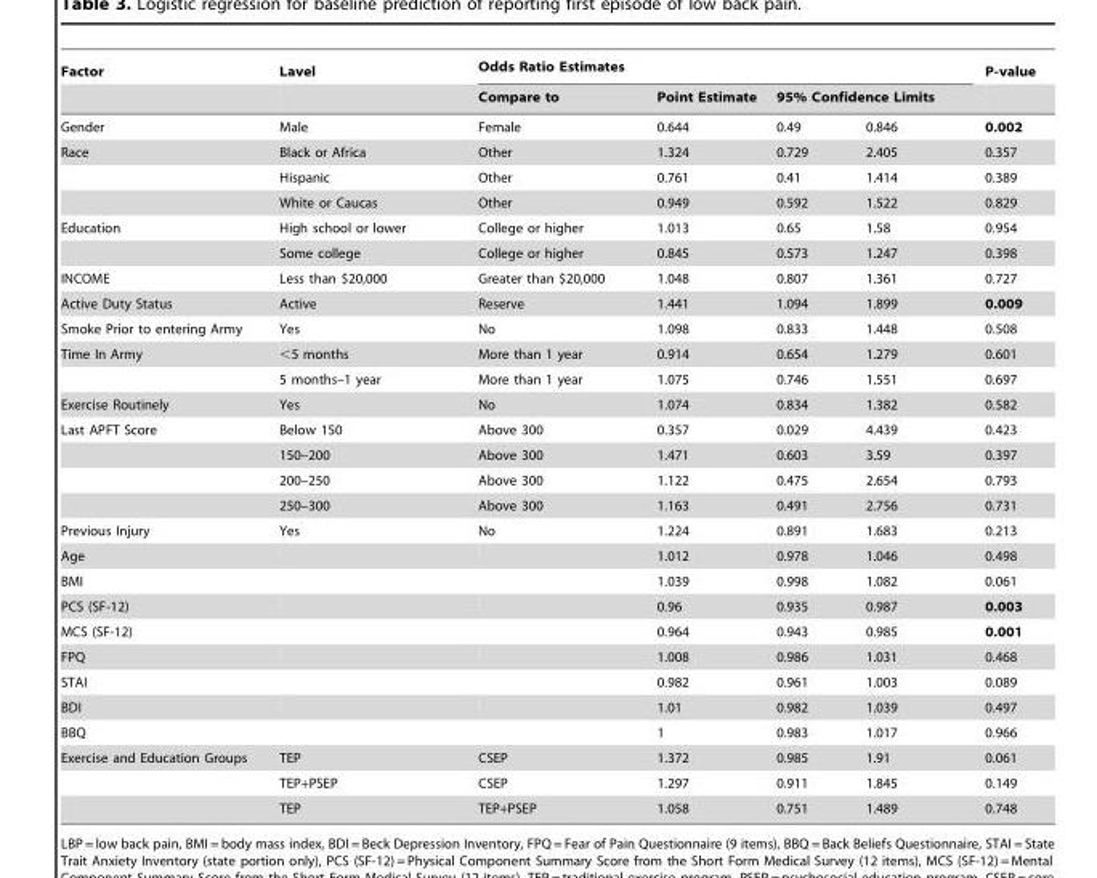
<table><thead><tr><td rowspan="3">Factor Gender</td><td rowspan="3">Lavel Male</td><td colspan="4">Odds Ratio Estimates</td><td rowspan="3">P-value 0.002</td></tr><tr><td rowspan="2">Compare to Female</td><td rowspan="2">Point Estimate 0.644</td><td colspan="2">95% Confidence Limits</td></tr><tr><td>0.49</td><td>0.846</td></tr></thead><tbody><tr><td rowspan="3">Race</td><td>Black or Africa</td><td>Other</td><td>1.324</td><td>0.729</td><td>2.405</td><td>0.357</td></tr><tr><td>Hispanic</td><td>Other</td><td>0.761</td><td>0.41</td><td>1.414</td><td>0.389</td></tr><tr><td>White or Caucas</td><td>Other</td><td>0.949</td><td>0.592</td><td>1.522</td><td>0.829</td></tr><tr><td rowspan="2">Education</td><td>High school or lower</td><td>College or higher</td><td>1.013</td><td>0.65</td><td>1.58</td><td>0.954</td></tr><tr><td>Some college</td><td>College or higher</td><td>0.845</td><td>0.573</td><td>1.247</td><td>0.398</td></tr><tr><td>INCOME</td><td>Less than $20,000</td><td>Greater than $20,000</td><td>1.048</td><td>0.807</td><td>1.361</td><td>0.727</td></tr><tr><td>Active Duty Status</td><td>Active</td><td>Reserve</td><td>1.441</td><td>1.094</td><td>1.899</td><td>0.009</td></tr><tr><td>Smoke Prior to entering Army</td><td>Yes</td><td>No</td><td>1.098</td><td>0.833</td><td>1.448</td><td>0.508</td></tr><tr><td rowspan="2">Time In Army</td><td>&lt;5 months</td><td>More than 1 year</td><td>0.914</td><td>0.654</td><td>1.279</td><td>0.601</td></tr><tr><td>5 months–1 year</td><td>More than 1 year</td><td>1.075</td><td>0.746</td><td>1.551</td><td>0.697</td></tr><tr><td>Exercise Routinely</td><td>Yes</td><td>No</td><td>1.074</td><td>0.834</td><td>1.382</td><td>0.582</td></tr><tr><td rowspan="4">Last APFT Score</td><td>Below 150</td><td>Above 300</td><td>0.357</td><td>0.029</td><td>4.439</td><td>0.423</td></tr><tr><td>150–200</td><td>Above 300</td><td>1.471</td><td>0.603</td><td>3.59</td><td>0.397</td></tr><tr><td>200–250</td><td>Above 300</td><td>1.122</td><td>0.475</td><td>2.654</td><td>0.793</td></tr><tr><td>250–300</td><td>Above 300</td><td>1.163</td><td>0.491</td><td>2.756</td><td>0.731</td></tr><tr><td>Previous Injury</td><td>Yes</td><td>No</td><td>1.224</td><td>0.891</td><td>1.683</td><td>0.213</td></tr><tr><td>Age</td><td></td><td></td><td>1.012</td><td>0.978</td><td>1.046</td><td>0.498</td></tr><tr><td>BMI</td><td></td><td></td><td>1.039</td><td>0.998</td><td>1.082</td><td>0.061</td></tr><tr><td>PCS (SF-12)</td><td></td><td></td><td>0.96</td><td>0.935</td><td>0.987</td><td>0.003</td></tr><tr><td>MCS (SF-12)</td><td></td><td></td><td>0.964</td><td>0.943</td><td>0.985</td><td>0.001</td></tr><tr><td>FPQ</td><td></td><td></td><td>1.008</td><td>0.986</td><td>1.031</td><td>0.468</td></tr><tr><td>STAI</td><td></td><td></td><td>0.982</td><td>0.961</td><td>1.003</td><td>0.089</td></tr><tr><td>BDI</td><td></td><td></td><td>1.01</td><td>0.982</td><td>1.039</td><td>0.497</td></tr><tr><td>BBQ</td><td></td><td></td><td>1</td><td>0.983</td><td>1.017</td><td>0.966</td></tr><tr><td rowspan="3">Exercise and Education Groups</td><td>TEP</td><td>CSEP</td><td>1.372</td><td>0.985</td><td>1.91</td><td>0.061</td></tr><tr><td>TEP+PSEP</td><td>CSEP</td><td>1.297</td><td>0.911</td><td>1.845</td><td>0.149</td></tr><tr><td>TEP</td><td>TEP+PSEP</td><td>1.058</td><td>0.751</td><td>1.489</td><td>0.748</td></tr></tbody></table>